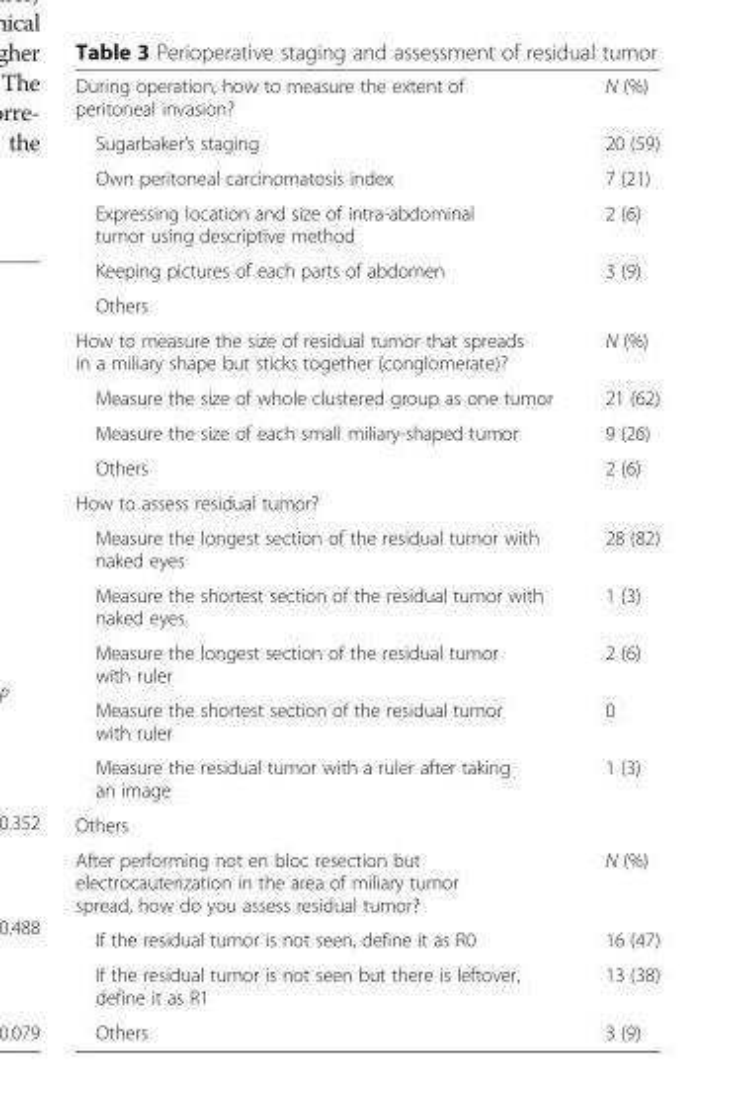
<table><tbody><tr><td>During operation, how to measure the extent of peritoneal invasion?</td><td>N (%)</td></tr><tr><td>Sugarbaker’s staging</td><td>20 (59)</td></tr><tr><td>Own peritoneal carcinomatosis index</td><td>7 (21)</td></tr><tr><td>Expressing location and size of intra-abdominal tumor using descriptive method</td><td>2 (6)</td></tr><tr><td>Keeping pictures of each parts of abdomen</td><td>3 (9)</td></tr><tr><td colspan="2">Others</td></tr><tr><td>How to measure the size of residual tumor that spreads in a miliary shape but sticks together (conglomerate)?</td><td>N (%)</td></tr><tr><td>Measure the size of whole clustered group as one tumor</td><td>21 (62)</td></tr><tr><td>Measure the size of each small miliary-shaped tumor</td><td>9 (26)</td></tr><tr><td>Others</td><td>2 (6)</td></tr><tr><td colspan="2">How to assess residual tumor?</td></tr><tr><td>Measure the longest section of the residual tumor with naked eyes</td><td>28 (82)</td></tr><tr><td>Measure the shortest section of the residual tumor with naked eyes</td><td>1 (3)</td></tr><tr><td>Measure the longest section of the residual tumor with ruler</td><td>2 (6)</td></tr><tr><td>Measure the shortest section of the residual tumor with ruler</td><td>0</td></tr><tr><td>Measure the residual tumor with a ruler after taking an image</td><td>1 (3)</td></tr><tr><td colspan="2">Others</td></tr><tr><td>After performing not en bloc resection but electrocauterization in the area of miliary tumor spread, how do you assess residual tumor?</td><td>N (%)</td></tr><tr><td>If the residual tumor is not seen, define it as R0</td><td>16 (47)</td></tr><tr><td>If the residual tumor is not seen but there is leftover, define it as R1</td><td>13 (38)</td></tr><tr><td>Others</td><td>3 (9)</td></tr></tbody></table>